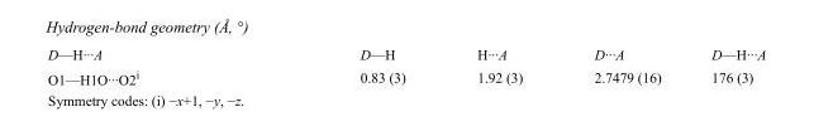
<table><tbody><tr><td>D—H···A</td><td>D—H</td><td>H···A</td><td>D···A</td><td>D—H···A</td></tr><tr><td>O1—H1O···O2<sup>i</sup></td><td>0.83 (3)</td><td>1.92 (3)</td><td>2.7479 (16)</td><td>176 (3)</td></tr></tbody></table>